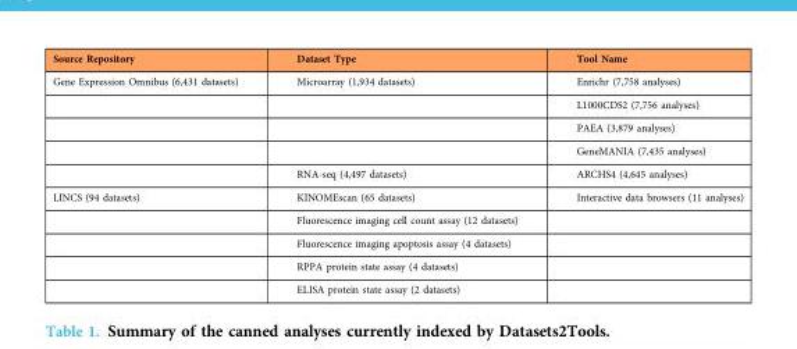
<table><thead><tr><td>Source Repository</td><td>Dataset Type</td><td>Tool Name</td></tr></thead><tbody><tr><td rowspan="5">Gene Expression Omnibus (6,431 datasets)</td><td>Microarray (1,934 datasets)</td><td>Enrichr (7,758 analyses)</td></tr><tr><td></td><td>L1000CDS2 (7,756 analyses)</td></tr><tr><td></td><td>PAEA (3,879 analyses)</td></tr><tr><td></td><td>GeneMANIA (7,435 analyses)</td></tr><tr><td>RNA-seq (4,497 datasets)</td><td>ARCHS4 (4,645 analyses)</td></tr><tr><td rowspan="5">LINCS (94 datasets)</td><td>KINOMEscan (65 datasets)</td><td>Interactive data browsers (11 analyses)</td></tr><tr><td>Fluorescence imaging cell count assay (12 datasets)</td><td></td></tr><tr><td>Fluorescence imaging apoptosis assay (4 datasets)</td><td></td></tr><tr><td>RPPA protein state assay (4 datasets)</td><td></td></tr><tr><td>ELISA protein state assay (2 datasets)</td><td></td></tr></tbody></table>